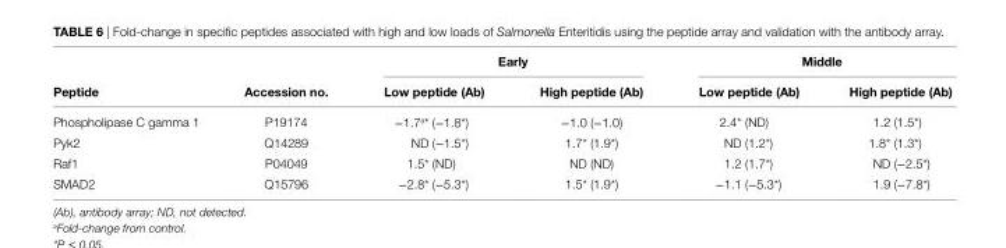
<table><thead><tr><td rowspan="2">Peptide</td><td rowspan="2">accession no.</td><td colspan="2">early</td><td colspan="2">Middle</td></tr><tr><td>low peptide (ab)</td><td>high peptide (ab)</td><td>low peptide (ab)</td><td>high peptide (ab)</td></tr></thead><tbody><tr><td>Phospholipase C gamma 1</td><td>P19174</td><td>−1.7<sup>a*</sup> (−1.8*)</td><td>−1.0 (−1.0)</td><td>2.4* (ND)</td><td>1.2 (1.5*)</td></tr><tr><td>Pyk2</td><td>Q14289</td><td>ND (−1.5*)</td><td>1.7* (1.9*)</td><td>ND (1.2*)</td><td>1.8* (1.3*)</td></tr><tr><td>Raf1</td><td>P04049</td><td>1.5* (ND)</td><td>ND (ND)</td><td>1.2 (1.7*)</td><td>ND (−2.5*)</td></tr><tr><td>SMAD2</td><td>Q15796</td><td>−2.8* (−5.3*)</td><td>1.5* (1.9*)</td><td>−1.1 (−5.3*)</td><td>1.9 (−7.8*)</td></tr></tbody></table>